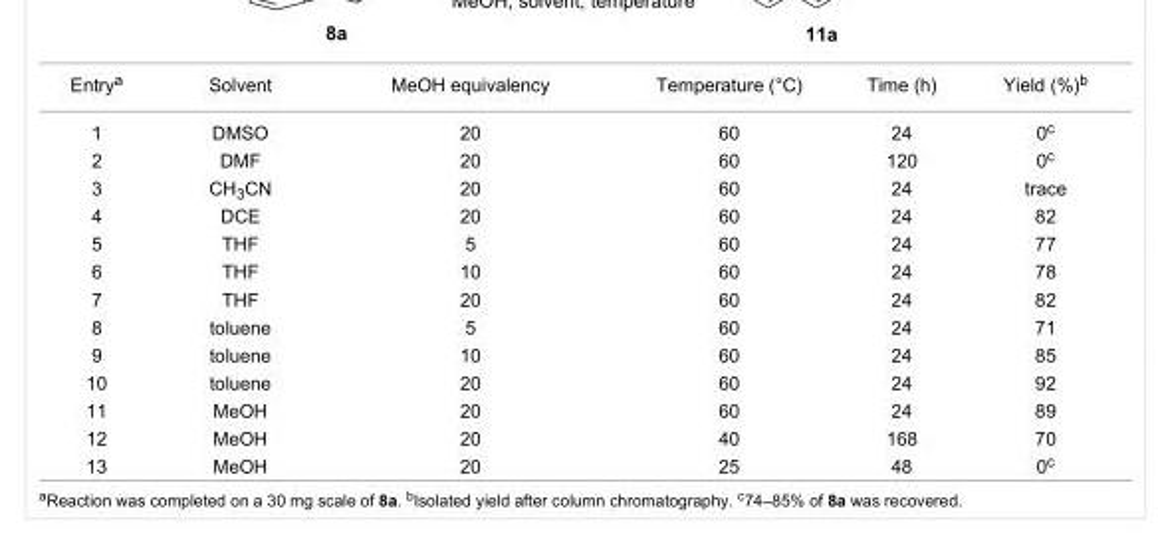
<table><tbody><tr><td>Entry<sup>a</sup></td><td>Solvent</td><td>MeOH equivalency</td><td>Temperature (°C)</td><td>Time (h)</td><td>Yield (%)<sup>b</sup></td></tr><tr><td>1</td><td>DMSO</td><td>20</td><td>60</td><td>24</td><td>0<sup>c</sup></td></tr><tr><td>2</td><td>DMF</td><td>20</td><td>60</td><td>120</td><td>0<sup>c</sup></td></tr><tr><td>3</td><td>CH<sub>3</sub>CN</td><td>20</td><td>60</td><td>24</td><td>trace</td></tr><tr><td>4</td><td>DCE</td><td>20</td><td>60</td><td>24</td><td>82</td></tr><tr><td>5</td><td>THF</td><td>5</td><td>60</td><td>24</td><td>77</td></tr><tr><td>6</td><td>THF</td><td>10</td><td>60</td><td>24</td><td>78</td></tr><tr><td>7</td><td>THF</td><td>20</td><td>60</td><td>24</td><td>82</td></tr><tr><td>8</td><td>toluene</td><td>5</td><td>60</td><td>24</td><td>71</td></tr><tr><td>9</td><td>toluene</td><td>10</td><td>60</td><td>24</td><td>85</td></tr><tr><td>10</td><td>toluene</td><td>20</td><td>60</td><td>24</td><td>92</td></tr><tr><td>11</td><td>MeOH</td><td>20</td><td>60</td><td>24</td><td>89</td></tr><tr><td>12</td><td>MeOH</td><td>20</td><td>40</td><td>168</td><td>70</td></tr><tr><td>13</td><td>MeOH</td><td>20</td><td>25</td><td>48</td><td>0<sup>c</sup></td></tr></tbody></table>